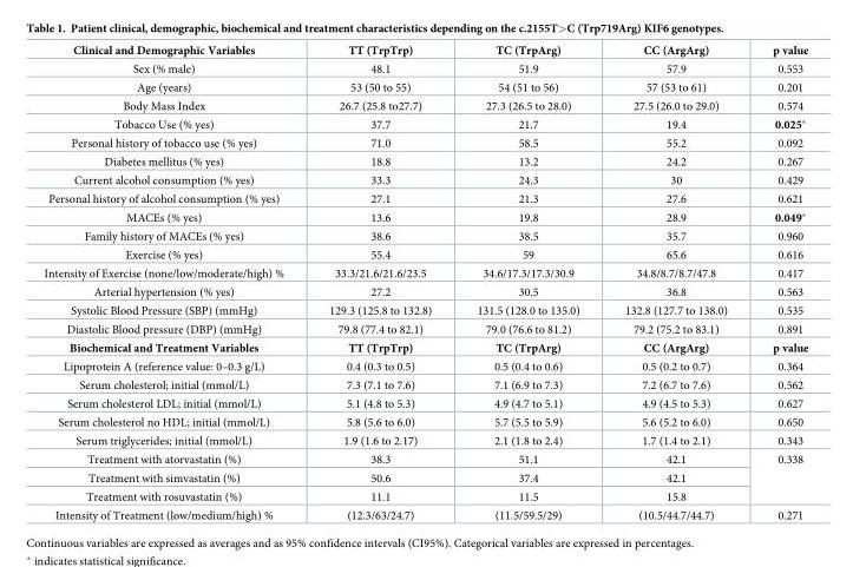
<table><tbody><tr><td>Clinical and Demographic Variables</td><td>TT (TrpTrp)</td><td>TC (TrpArg)</td><td>CC (ArgArg)</td><td>p value</td></tr><tr><td>Sex (% male)</td><td>48.1</td><td>51.9</td><td>57.9</td><td>0.553</td></tr><tr><td>Age (years)</td><td>53 (50 to 55)</td><td>54 (51 to 56)</td><td>57 (53 to 61)</td><td>0.201</td></tr><tr><td>Body Mass Index</td><td>26.7 (25.8 to27.7)</td><td>27.3 (26.5 to 28.0)</td><td>27.5 (26.0 to 29.0)</td><td>0.574</td></tr><tr><td>Tobacco Use (% yes)</td><td>37.7</td><td>21.7</td><td>19.4</td><td>0.025*</td></tr><tr><td>Personal history of tobacco use (% yes)</td><td>71.0</td><td>58.5</td><td>55.2</td><td>0.092</td></tr><tr><td>Diabetes mellitus (% yes)</td><td>18.8</td><td>13.2</td><td>24.2</td><td>0.267</td></tr><tr><td>Current alcohol consumption (% yes)</td><td>33.3</td><td>24.3</td><td>30</td><td>0.429</td></tr><tr><td>Personal history of alcohol consumption (% yes)</td><td>27.1</td><td>21.3</td><td>27.6</td><td>0.621</td></tr><tr><td>MACEs (% yes)</td><td>13.6</td><td>19.8</td><td>28.9</td><td>0.049*</td></tr><tr><td>Family history of MACEs (% yes)</td><td>38.6</td><td>38.5</td><td>35.7</td><td>0.960</td></tr><tr><td>Exercise (% yes)</td><td>55.4</td><td>59</td><td>65.6</td><td>0.616</td></tr><tr><td>Intensity of Exercise (none/low/moderate/high) %</td><td>33.3/21.6/21.6/23.5</td><td>34.6/17.3/17.3/30.9</td><td>34.8/8.7/8.7/47.8</td><td>0.417</td></tr><tr><td>Arterial hypertension (% yes)</td><td>27.2</td><td>30.5</td><td>36.8</td><td>0.563</td></tr><tr><td>Systolic Blood Pressure (SBP) (mmHg)</td><td>129.3 (125.8 to 132.8)</td><td>131.5 (128.0 to 135.0)</td><td>132.8 (127.7 to 138.0)</td><td>0.535</td></tr><tr><td>Diastolic Blood pressure (DBP) (mmHg)</td><td>79.8 (77.4 to 82.1)</td><td>79.0 (76.6 to 81.2)</td><td>79.2 (75.2 to 83.1)</td><td>0.891</td></tr><tr><td>Biochemical and Treatment Variables</td><td>TT (TrpTrp)</td><td>TC (TrpArg)</td><td>CC (ArgArg)</td><td>p value</td></tr><tr><td>Lipoprotein A (reference value: 0–0.3 g/L)</td><td>0.4 (0.3 to 0.5)</td><td>0.5 (0.4 to 0.6)</td><td>0.5 (0.2 to 0.7)</td><td>0.364</td></tr><tr><td>Serum cholesterol; initial (mmol/L)</td><td>7.3 (7.1 to 7.6)</td><td>7.1 (6.9 to 7.3)</td><td>7.2 (6.7 to 7.6)</td><td>0.562</td></tr><tr><td>Serum cholesterol LDL; initial (mmol/L)</td><td>5.1 (4.8 to 5.3)</td><td>4.9 (4.7 to 5.1)</td><td>4.9 (4.5 to 5.3)</td><td>0.627</td></tr><tr><td>Serum cholesterol no HDL; initial (mmol/L)</td><td>5.8 (5.6 to 6.0)</td><td>5.7 (5.5 to 5.9)</td><td>5.6 (5.2 to 6.0)</td><td>0.650</td></tr><tr><td>Serum triglycerides; initial (mmol/L)</td><td>1.9 (1.6 to 2.17)</td><td>2.1 (1.8 to 2.4)</td><td>1.7 (1.4 to 2.1)</td><td>0.343</td></tr><tr><td>Treatment with atorvastatin (%)</td><td>38.3</td><td>51.1</td><td>42.1</td><td rowspan="3">0.338</td></tr><tr><td>Treatment with simvastatin (%)</td><td>50.6</td><td>37.4</td><td>42.1</td></tr><tr><td>Treatment with rosuvastatin (%)</td><td>11.1</td><td>11.5</td><td>15.8</td></tr><tr><td>Intensity of Treatment (low/medium/high) %</td><td>(12.3/63/24.7)</td><td>(11.5/59.5/29)</td><td>(10.5/44.7/44.7)</td><td>0.271</td></tr></tbody></table>